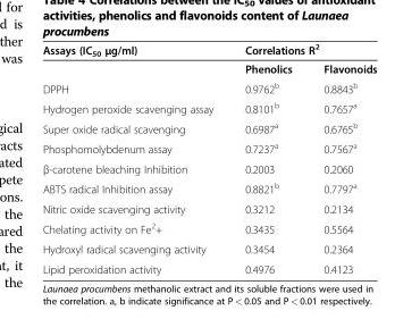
<table><thead><tr><td rowspan="2">Assays (IC<sub>50</sub> μg/ml)</td><td colspan="2">Correlations R<sup>2</sup></td></tr><tr><td>Phenolics</td><td>Flavonoids</td></tr></thead><tbody><tr><td>DPPH</td><td>0.9762<sup>b</sup></td><td>0.8843<sup>b</sup></td></tr><tr><td>Hydrogen peroxide scavenging assay</td><td>0.8101<sup>b</sup></td><td>0.7657<sup>a</sup></td></tr><tr><td>Super oxide radical scavenging</td><td>0.6987<sup>a</sup></td><td>0.6765<sup>b</sup></td></tr><tr><td>Phosphomolybdenum assay</td><td>0.7237<sup>a</sup></td><td>0.7567<sup>a</sup></td></tr><tr><td>β-carotene bleaching Inhibition</td><td>0.2003</td><td>0.2060</td></tr><tr><td>ABTS radical Inhibition assay</td><td>0.8821<sup>b</sup></td><td>0.7797<sup>a</sup></td></tr><tr><td>Nitric oxide scavenging activity</td><td>0.3212</td><td>0.2134</td></tr><tr><td>Chelating activity on Fe<sup>2</sup>+</td><td>0.3435</td><td>0.5564</td></tr><tr><td>Hydroxyl radical scavenging activity</td><td>0.3454</td><td>0.2364</td></tr><tr><td>Lipid peroxidation activity</td><td>0.4976</td><td>0.4123</td></tr></tbody></table>